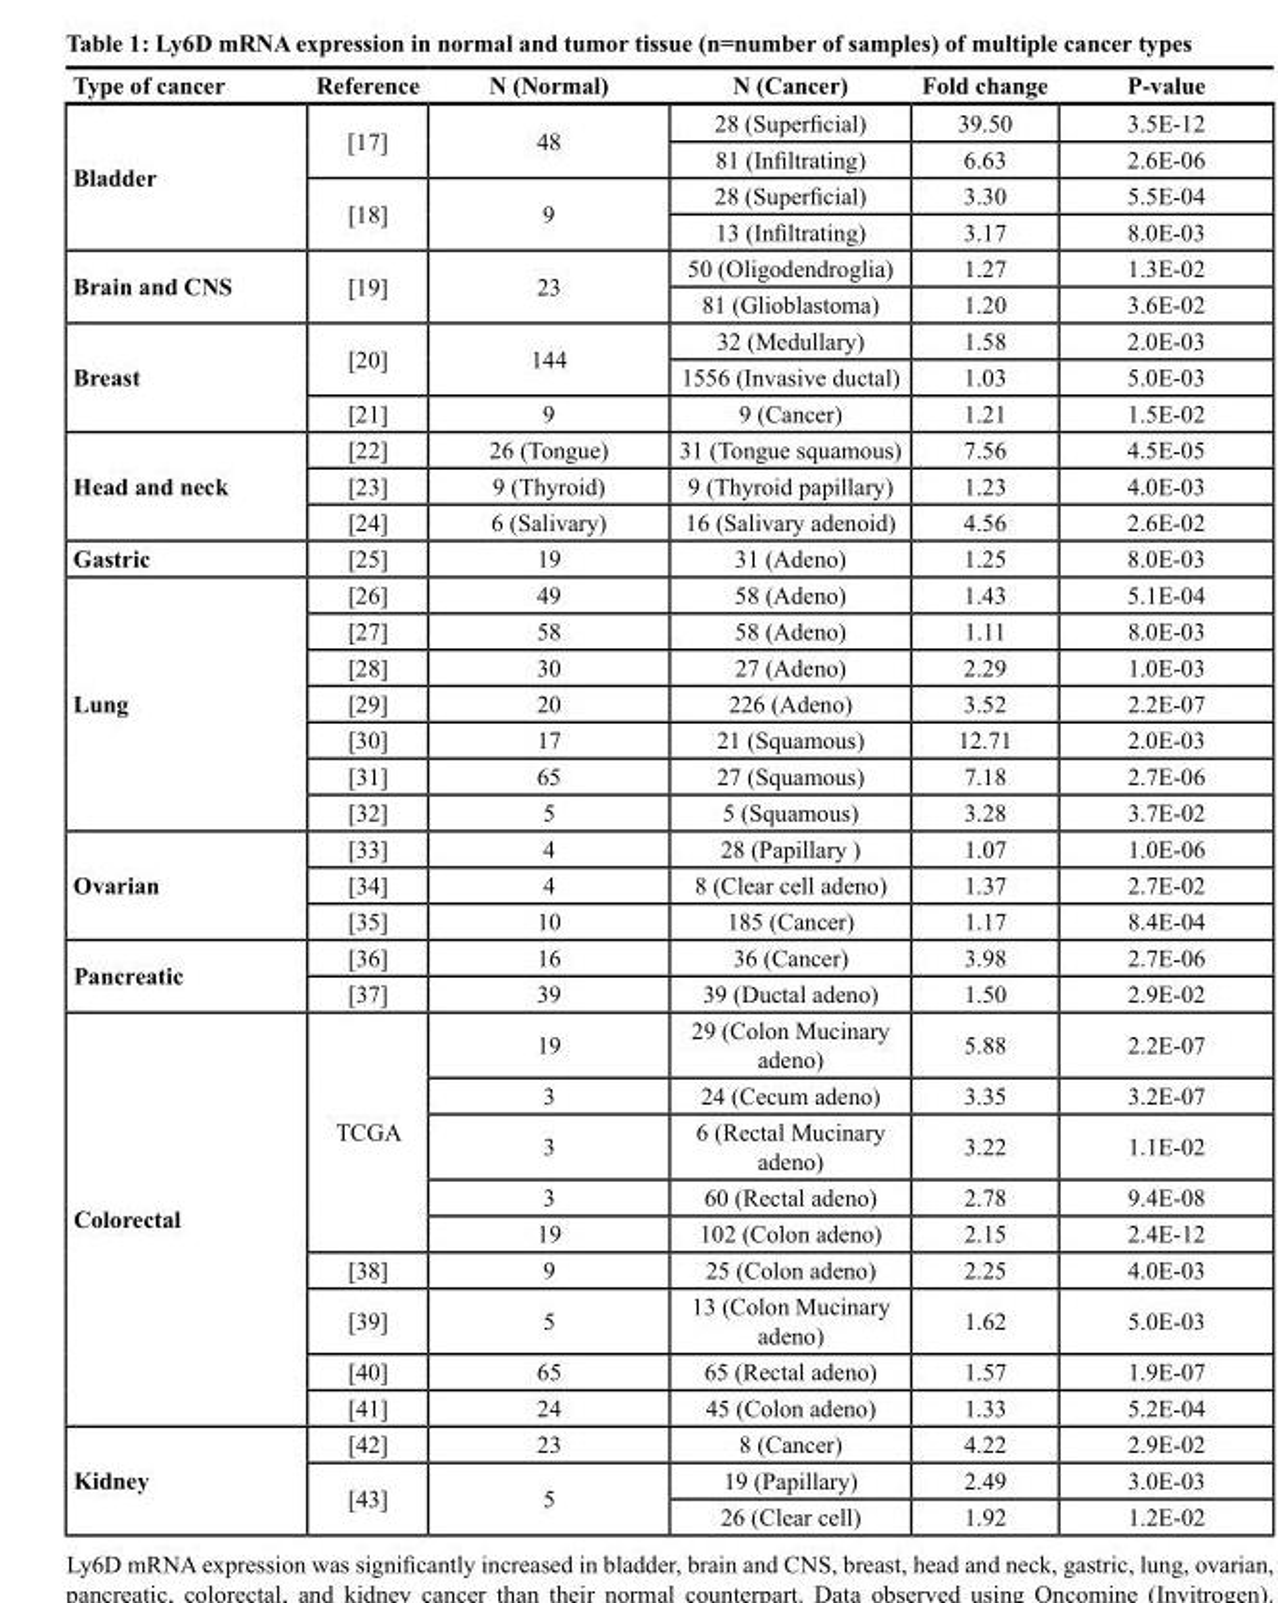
<table><thead><tr><td>Type of cancer</td><td>Reference</td><td>N (Normal)</td><td>N (Cancer)</td><td>Fold change</td><td>P-value</td></tr></thead><tbody><tr><td rowspan="4">Bladder</td><td rowspan="2">[17]</td><td rowspan="2">48</td><td>28 (Superficial)</td><td>39.50</td><td>3.5E-12</td></tr><tr><td>81 (Infiltrating)</td><td>6.63</td><td>2.6E-06</td></tr><tr><td rowspan="2">[18]</td><td rowspan="2">9</td><td>28 (Superficial)</td><td>3.30</td><td>5.5E-04</td></tr><tr><td>13 (Infiltrating)</td><td>3.17</td><td>8.0E-03</td></tr><tr><td rowspan="2">Brain and CNS</td><td rowspan="2">[19]</td><td rowspan="2">23</td><td>50 (Oligodendroglia)</td><td>1.27</td><td>1.3E-02</td></tr><tr><td>81 (Glioblastoma)</td><td>1.20</td><td>3.6E-02</td></tr><tr><td rowspan="3">Breast</td><td rowspan="2">[20]</td><td rowspan="2">144</td><td>32 (Medullary)</td><td>1.58</td><td>2.0E-03</td></tr><tr><td>1556 (Invasive ductal)</td><td>1.03</td><td>5.0E-03</td></tr><tr><td>[21]</td><td>9</td><td>9 (Cancer)</td><td>1.21</td><td>1.5E-02</td></tr><tr><td rowspan="3">Head and neck</td><td>[22]</td><td>26 (Tongue)</td><td>31 (Tongue squamous)</td><td>7.56</td><td>4.5E-05</td></tr><tr><td>[23]</td><td>9 (Thyroid)</td><td>9 (Thyroid papillary)</td><td>1.23</td><td>4.0E-03</td></tr><tr><td>[24]</td><td>6 (Salivary)</td><td>16 (Salivary adenoid)</td><td>4.56</td><td>2.6E-02</td></tr><tr><td>Gastric</td><td>[25]</td><td>19</td><td>31 (Adeno)</td><td>1.25</td><td>8.0E-03</td></tr><tr><td rowspan="7">Lung</td><td>[26]</td><td>49</td><td>58 (Adeno)</td><td>1.43</td><td>5.1E-04</td></tr><tr><td>[27]</td><td>58</td><td>58 (Adeno)</td><td>1.11</td><td>8.0E-03</td></tr><tr><td>[28]</td><td>30</td><td>27 (Adeno)</td><td>2.29</td><td>1.0E-03</td></tr><tr><td>[29]</td><td>20</td><td>226 (Adeno)</td><td>3.52</td><td>2.2E-07</td></tr><tr><td>[30]</td><td>17</td><td>21 (Squamous)</td><td>12.71</td><td>2.0E-03</td></tr><tr><td>[31]</td><td>65</td><td>27 (Squamous)</td><td>7.18</td><td>2.7E-06</td></tr><tr><td>[32]</td><td>5</td><td>5 (Squamous)</td><td>3.28</td><td>3.7E-02</td></tr><tr><td rowspan="3">Ovarian</td><td>[33]</td><td>4</td><td>28 (Papillary )</td><td>1.07</td><td>1.0E-06</td></tr><tr><td>[34]</td><td>4</td><td>8 (Clear cell adeno)</td><td>1.37</td><td>2.7E-02</td></tr><tr><td>[35]</td><td>10</td><td>185 (Cancer)</td><td>1.17</td><td>8.4E-04</td></tr><tr><td rowspan="2">Pancreatic</td><td>[36]</td><td>16</td><td>36 (Cancer)</td><td>3.98</td><td>2.7E-06</td></tr><tr><td>[37]</td><td>39</td><td>39 (Ductal adeno)</td><td>1.50</td><td>2.9E-02</td></tr><tr><td rowspan="9">Colorectal</td><td rowspan="5">TCGA</td><td>19</td><td>29 (Colon Mucinary adeno)</td><td>5.88</td><td>2.2E-07</td></tr><tr><td>3</td><td>24 (Cecum adeno)</td><td>3.35</td><td>3.2E-07</td></tr><tr><td>3</td><td>6 (Rectal Mucinary adeno)</td><td>3.22</td><td>1.1E-02</td></tr><tr><td>3</td><td>60 (Rectal adeno)</td><td>2.78</td><td>9.4E-08</td></tr><tr><td>19</td><td>102 (Colon adeno)</td><td>2.15</td><td>2.4E-12</td></tr><tr><td>[38]</td><td>9</td><td>25 (Colon adeno)</td><td>2.25</td><td>4.0E-03</td></tr><tr><td>[39]</td><td>5</td><td>13 (Colon Mucinary adeno)</td><td>1.62</td><td>5.0E-03</td></tr><tr><td>[40]</td><td>65</td><td>65 (Rectal adeno)</td><td>1.57</td><td>1.9E-07</td></tr><tr><td>[41]</td><td>24</td><td>45 (Colon adeno)</td><td>1.33</td><td>5.2E-04</td></tr><tr><td rowspan="3">Kidney</td><td>[42]</td><td>23</td><td>8 (Cancer)</td><td>4.22</td><td>2.9E-02</td></tr><tr><td rowspan="2">[43]</td><td rowspan="2">5</td><td>19 (Papillary)</td><td>2.49</td><td>3.0E-03</td></tr><tr><td>26 (Clear cell)</td><td>1.92</td><td>1.2E-02</td></tr></tbody></table>